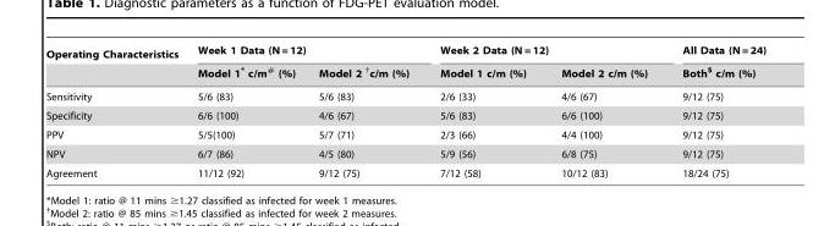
<table><thead><tr><td rowspan="2">Operating Characteristics</td><td colspan="2">Week 1 Data (N = 12)</td><td colspan="2">Week 2 Data (N = 12)</td><td rowspan="2">All Data (N = 24) Both$ c/m (%)</td></tr><tr><td>Model 1* c/m# (%)</td><td>Model 2 †c/m (%)</td><td>Model 1 c/m (%)</td><td>Model 2 c/m (%)</td></tr></thead><tbody><tr><td>Sensitivity</td><td>5/6 (83)</td><td>5/6 (83)</td><td>2/6 (33)</td><td>4/6 (67)</td><td>9/12 (75)</td></tr><tr><td>Specificity</td><td>6/6 (100)</td><td>4/6 (67)</td><td>5/6 (83)</td><td>6/6 (100)</td><td>9/12 (75)</td></tr><tr><td>PPV</td><td>5/5(100)</td><td>5/7 (71)</td><td>2/3 (66)</td><td>4/4 (100)</td><td>9/12 (75)</td></tr><tr><td>NPV</td><td>6/7 (86)</td><td>4/5 (80)</td><td>5/9 (56)</td><td>6/8 (75)</td><td>9/12 (75)</td></tr><tr><td>Agreement</td><td>11/12 (92)</td><td>9/12 (75)</td><td>7/12 (58)</td><td>10/12 (83)</td><td>18/24 (75)</td></tr></tbody></table>